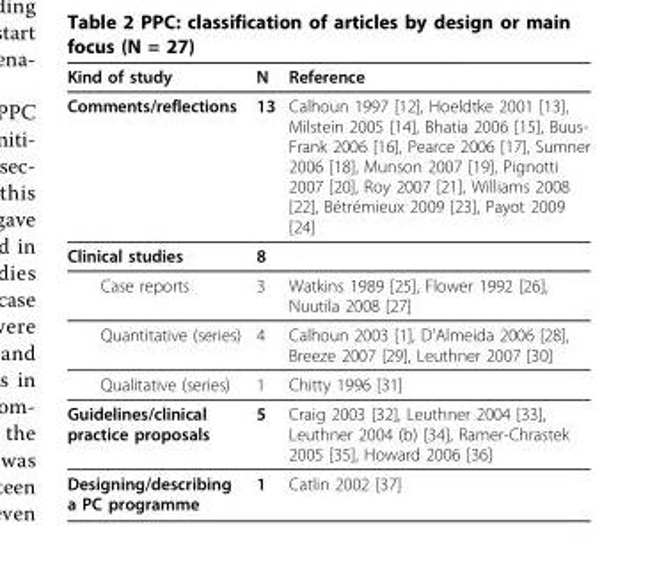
<table><thead><tr><td>Kind of study</td><td>N</td><td>Reference</td></tr></thead><tbody><tr><td>Comments/reflections</td><td>13</td><td>Calhoun 1997 [12], Hoeldtke 2001 [13], Milstein 2005 [14], Bhatia 2006 [15], Buus- Frank 2006 [16], Pearce 2006 [17], Sumner 2006 [18], Munson 2007 [19], Pignotti 2007 [20], Roy 2007 [21], Williams 2008 [22], Bétrémieux 2009 [23], Payot 2009 [24]</td></tr><tr><td>Clinical studies</td><td>8</td><td></td></tr><tr><td>Case reports</td><td>3</td><td>Watkins 1989 [25], Flower 1992 [26], Nuutila 2008 [27]</td></tr><tr><td>Quantitative (series)</td><td>4</td><td>Calhoun 2003 [1], D’Almeida 2006 [28], Breeze 2007 [29], Leuthner 2007 [30]</td></tr><tr><td>Qualitative (series)</td><td>1</td><td>Chitty 1996 [31]</td></tr><tr><td>Guidelines/clinical practice proposals</td><td>5</td><td>Craig 2003 [32], Leuthner 2004 [33], Leuthner 2004 (b) [34], Ramer-Chrastek 2005 [35], Howard 2006 [36]</td></tr><tr><td>Designing/describing a PC programme</td><td>1</td><td>Catlin 2002 [37]</td></tr></tbody></table>